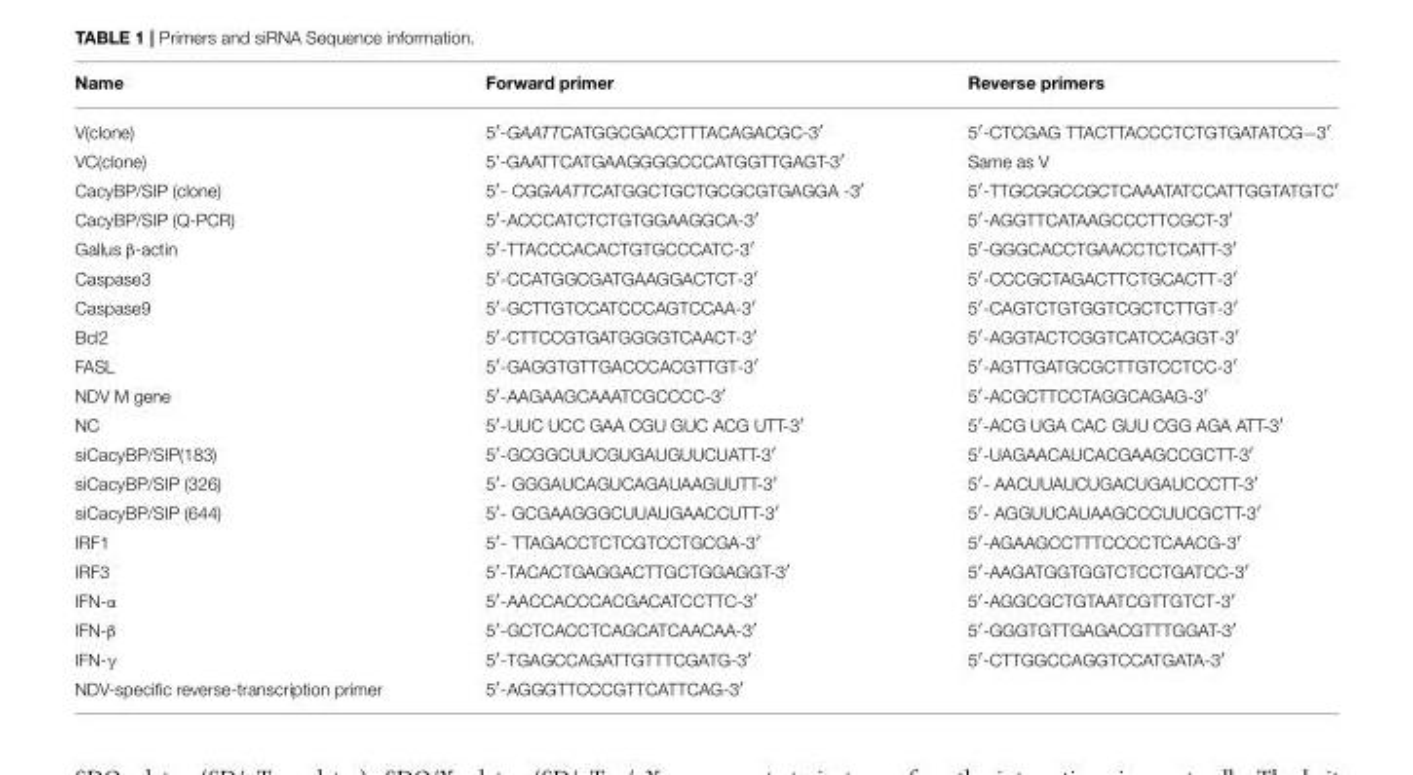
<table><thead><tr><td>Name</td><td>Forward primer</td><td>Reverse primers</td></tr></thead><tbody><tr><td>V(clone)</td><td>5′-GAATTCATGGCGACCTTTACAGACGC-3′</td><td>5′-CTCGAG TTACTTACCCTCTGTGATATCG−3′</td></tr><tr><td>VC(clone)</td><td>5’-GAATTCATGAAGGGGCCCATGGTTGAGT-3′</td><td>Same as V</td></tr><tr><td>CacyBP/SIP (clone)</td><td>5′- CGGAATTCATGGCTGCTGCGCGTGAGGA -3′</td><td>5′-TTGCGGCCGCTCAAATATCCATTGGTATGTC′</td></tr><tr><td>CacyBP/SIP (Q-PCR)</td><td>5′-ACCCATCTCTGTGGAAGGCA-3′</td><td>5′-AGGTTCATAAGCCCTTCGCT-3′</td></tr><tr><td>Gallus β-actin</td><td>5′-TTACCCACACTGTGCCCATC-3′</td><td>5′-GGGCACCTGAACCTCTCATT-3′</td></tr><tr><td>Caspase3</td><td>5′-CCATGGCGATGAAGGACTCT-3′</td><td>5′-CCCGCTAGACTTCTGCACTT-3′</td></tr><tr><td>Caspase9</td><td>5′-GCTTGTCCATCCCAGTCCAA-3′</td><td>5′-CAGTCTGTGGTCGCTCTTGT-3′</td></tr><tr><td>Bcl2</td><td>5′-CTTCCGTGATGGGGTCAACT-3′</td><td>5′-AGGTACTCGGTCATCCAGGT-3′</td></tr><tr><td>FASL</td><td>5′-GAGGTGTTGACCCACGTTGT-3′</td><td>5′-AGTTGATGCGCTTGTCCTCC-3′</td></tr><tr><td>NDV M gene</td><td>5′-AAGAAGCAAATCGCCCC-3′</td><td>5′-ACGCTTCCTAGGCAGAG-3′</td></tr><tr><td>NC</td><td>5′-UUC UCC GAA CGU GUC ACG UTT-3′</td><td>5′-ACG UGA CAC GUU CGG AGA ATT-3′</td></tr><tr><td>siCacyBP/SIP(183)</td><td>5′-GCGGCUUCGUGAUGUUCUATT-3′</td><td>5′-UAGAACAUCACGAAGCCGCTT-3′</td></tr><tr><td>siCacyBP/SIP (326)</td><td>5′- GGGAUCAGUCAGAUAAGUUTT-3′</td><td>5′- AACUUAUCUGACUGAUCCCTT-3′</td></tr><tr><td>siCacyBP/SIP (644)</td><td>5′- GCGAAGGGCUUAUGAACCUTT-3′</td><td>5′- AGGUUCAUAAGCCCUUCGCTT-3′</td></tr><tr><td>IRF1</td><td>5′- TTAGACCTCTCGTCCTGCGA-3′</td><td>5′-AGAAGCCTTTCCCCTCAACG-3′</td></tr><tr><td>IRF3</td><td>5′-TACACTGAGGACTTGCTGGAGGT-3′</td><td>5′-AAGATGGTGGTCTCCTGATCC-3′</td></tr><tr><td>IFN-α</td><td>5′-AACCACCCACGACATCCTTC-3′</td><td>5′-AGGCGCTGTAATCGTTGTCT-3′</td></tr><tr><td>IFN-β</td><td>5′-GCTCACCTCAGCATCAACAA-3′</td><td>5′-GGGTGTTGAGACGTTTGGAT-3′</td></tr><tr><td>IFN-γ</td><td>5′-TGAGCCAGATTGTTTCGATG-3′</td><td>5′-CTTGGCCAGGTCCATGATA-3′</td></tr><tr><td>NDV-specific reverse-transcription primer</td><td>5′-AGGGTTCCCGTTCATTCAG-3′</td><td></td></tr></tbody></table>